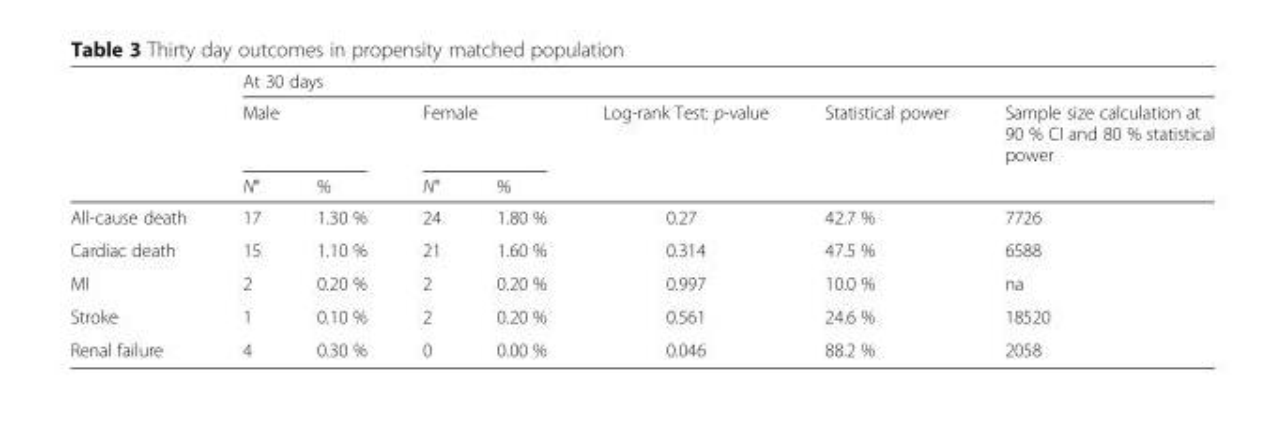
<table><thead><tr><td rowspan="3"></td><td colspan="7">At 30 days</td></tr><tr><td colspan="2">Male</td><td colspan="2">Female</td><td rowspan="2">Log-rank Test: p-value</td><td rowspan="2">Statistical power</td><td rowspan="2">Sample size calculation at 90 % CI and 80 % statistical power</td></tr><tr><td>N°</td><td>%</td><td>N°</td><td>%</td></tr></thead><tbody><tr><td>All-cause death</td><td>17</td><td>1.30 %</td><td>24</td><td>1.80 %</td><td>0.27</td><td>42.7 %</td><td>7726</td></tr><tr><td>Cardiac death</td><td>15</td><td>1.10 %</td><td>21</td><td>1.60 %</td><td>0.314</td><td>47.5 %</td><td>6588</td></tr><tr><td>MI</td><td>2</td><td>0.20 %</td><td>2</td><td>0.20 %</td><td>0.997</td><td>10.0 %</td><td>na</td></tr><tr><td>Stroke</td><td>1</td><td>0.10 %</td><td>2</td><td>0.20 %</td><td>0.561</td><td>24.6 %</td><td>18520</td></tr><tr><td>Renal failure</td><td>4</td><td>0.30 %</td><td>0</td><td>0.00 %</td><td>0.046</td><td>88.2 %</td><td>2058</td></tr></tbody></table>